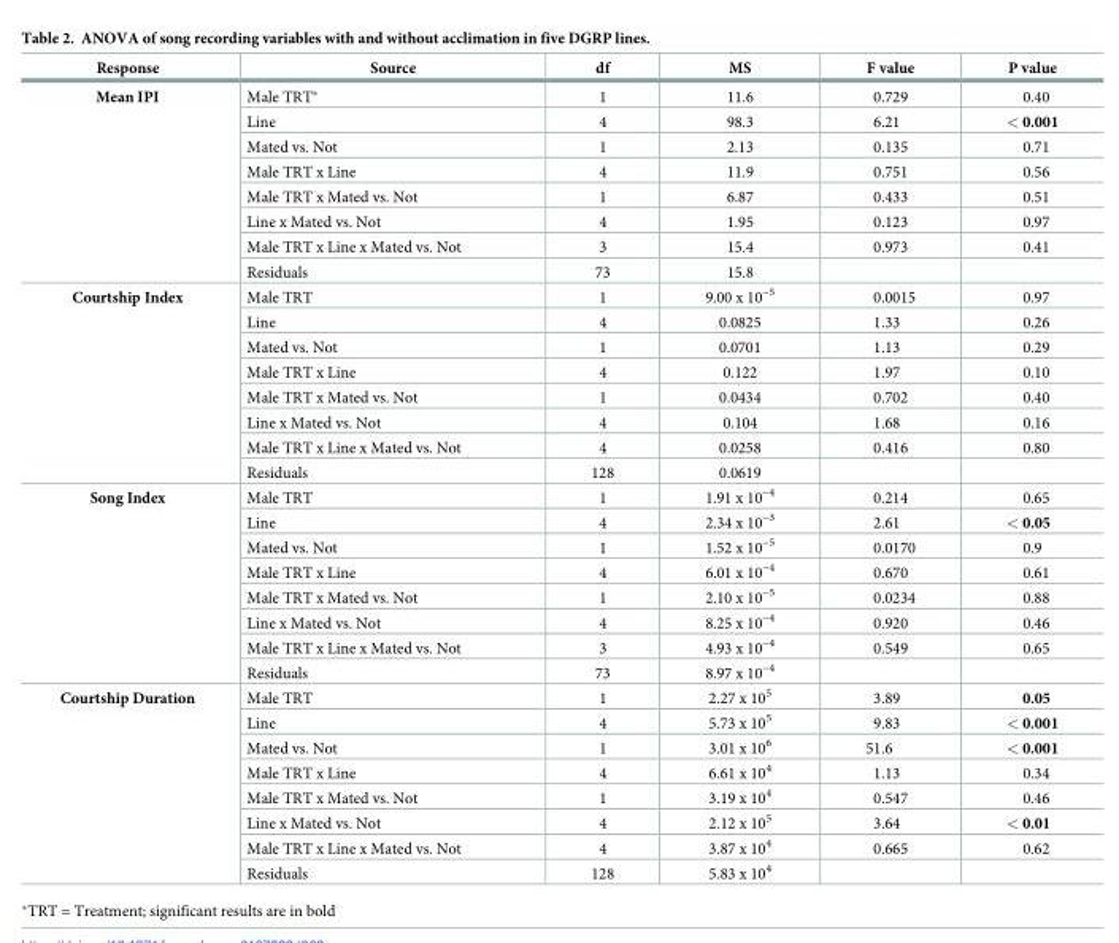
<table><thead><tr><td>Response</td><td>Source</td><td>df</td><td>MS</td><td>F value</td><td>P value</td></tr></thead><tbody><tr><td rowspan="8">Mean IPI</td><td>Male TRT*</td><td>1</td><td>11.6</td><td>0.729</td><td>0.40</td></tr><tr><td>Line</td><td>4</td><td>98.3</td><td>6.21</td><td>&lt; 0.001</td></tr><tr><td>Mated vs. Not</td><td>1</td><td>2.13</td><td>0.135</td><td>0.71</td></tr><tr><td>Male TRT x Line</td><td>4</td><td>11.9</td><td>0.751</td><td>0.56</td></tr><tr><td>Male TRT x Mated vs. Not</td><td>1</td><td>6.87</td><td>0.433</td><td>0.51</td></tr><tr><td>Line x Mated vs. Not</td><td>4</td><td>1.95</td><td>0.123</td><td>0.97</td></tr><tr><td>Male TRT x Line x Mated vs. Not</td><td>3</td><td>15.4</td><td>0.973</td><td>0.41</td></tr><tr><td>Residuals</td><td>73</td><td>15.8</td><td></td><td></td></tr><tr><td rowspan="8">Courtship Index</td><td>Male TRT</td><td>1</td><td>9.00 x 10<sup>−5</sup></td><td>0.0015</td><td>0.97</td></tr><tr><td>Line</td><td>4</td><td>0.0825</td><td>1.33</td><td>0.26</td></tr><tr><td>Mated vs. Not</td><td>1</td><td>0.0701</td><td>1.13</td><td>0.29</td></tr><tr><td>Male TRT x Line</td><td>4</td><td>0.122</td><td>1.97</td><td>0.10</td></tr><tr><td>Male TRT x Mated vs. Not</td><td>1</td><td>0.0434</td><td>0.702</td><td>0.40</td></tr><tr><td>Line x Mated vs. Not</td><td>4</td><td>0.104</td><td>1.68</td><td>0.16</td></tr><tr><td>Male TRT x Line x Mated vs. Not</td><td>4</td><td>0.0258</td><td>0.416</td><td>0.80</td></tr><tr><td>Residuals</td><td>128</td><td>0.0619</td><td></td><td></td></tr><tr><td rowspan="8">Song Index</td><td>Male TRT</td><td>1</td><td>1.91 x 10<sup>−4</sup></td><td>0.214</td><td>0.65</td></tr><tr><td>Line</td><td>4</td><td>2.34 x 10<sup>−3</sup></td><td>2.61</td><td>&lt; 0.05</td></tr><tr><td>Mated vs. Not</td><td>1</td><td>1.52 x 10<sup>−5</sup></td><td>0.0170</td><td>0.9</td></tr><tr><td>Male TRT x Line</td><td>4</td><td>6.01 x 10<sup>−4</sup></td><td>0.670</td><td>0.61</td></tr><tr><td>Male TRT x Mated vs. Not</td><td>1</td><td>2.10 x 10<sup>−5</sup></td><td>0.0234</td><td>0.88</td></tr><tr><td>Line x Mated vs. Not</td><td>4</td><td>8.25 x 10<sup>−4</sup></td><td>0.920</td><td>0.46</td></tr><tr><td>Male TRT x Line x Mated vs. Not</td><td>3</td><td>4.93 x 10<sup>−4</sup></td><td>0.549</td><td>0.65</td></tr><tr><td>Residuals</td><td>73</td><td>8.97 x 10<sup>−4</sup></td><td></td><td></td></tr><tr><td rowspan="8">Courtship Duration</td><td>Male TRT</td><td>1</td><td>2.27 x 10<sup>5</sup></td><td>3.89</td><td>0.05</td></tr><tr><td>Line</td><td>4</td><td>5.73 x 10<sup>5</sup></td><td>9.83</td><td>&lt; 0.001</td></tr><tr><td>Mated vs. Not</td><td>1</td><td>3.01 x 10<sup>6</sup></td><td>51.6</td><td>&lt; 0.001</td></tr><tr><td>Male TRT x Line</td><td>4</td><td>6.61 x 10<sup>4</sup></td><td>1.13</td><td>0.34</td></tr><tr><td>Male TRT x Mated vs. Not</td><td>1</td><td>3.19 x 10<sup>4</sup></td><td>0.547</td><td>0.46</td></tr><tr><td>Line x Mated vs. Not</td><td>4</td><td>2.12 x 10<sup>5</sup></td><td>3.64</td><td>&lt; 0.01</td></tr><tr><td>Male TRT x Line x Mated vs. Not</td><td>4</td><td>3.87 x 10<sup>4</sup></td><td>0.665</td><td>0.62</td></tr><tr><td>Residuals</td><td>128</td><td>5.83 x 10<sup>4</sup></td><td></td><td></td></tr></tbody></table>